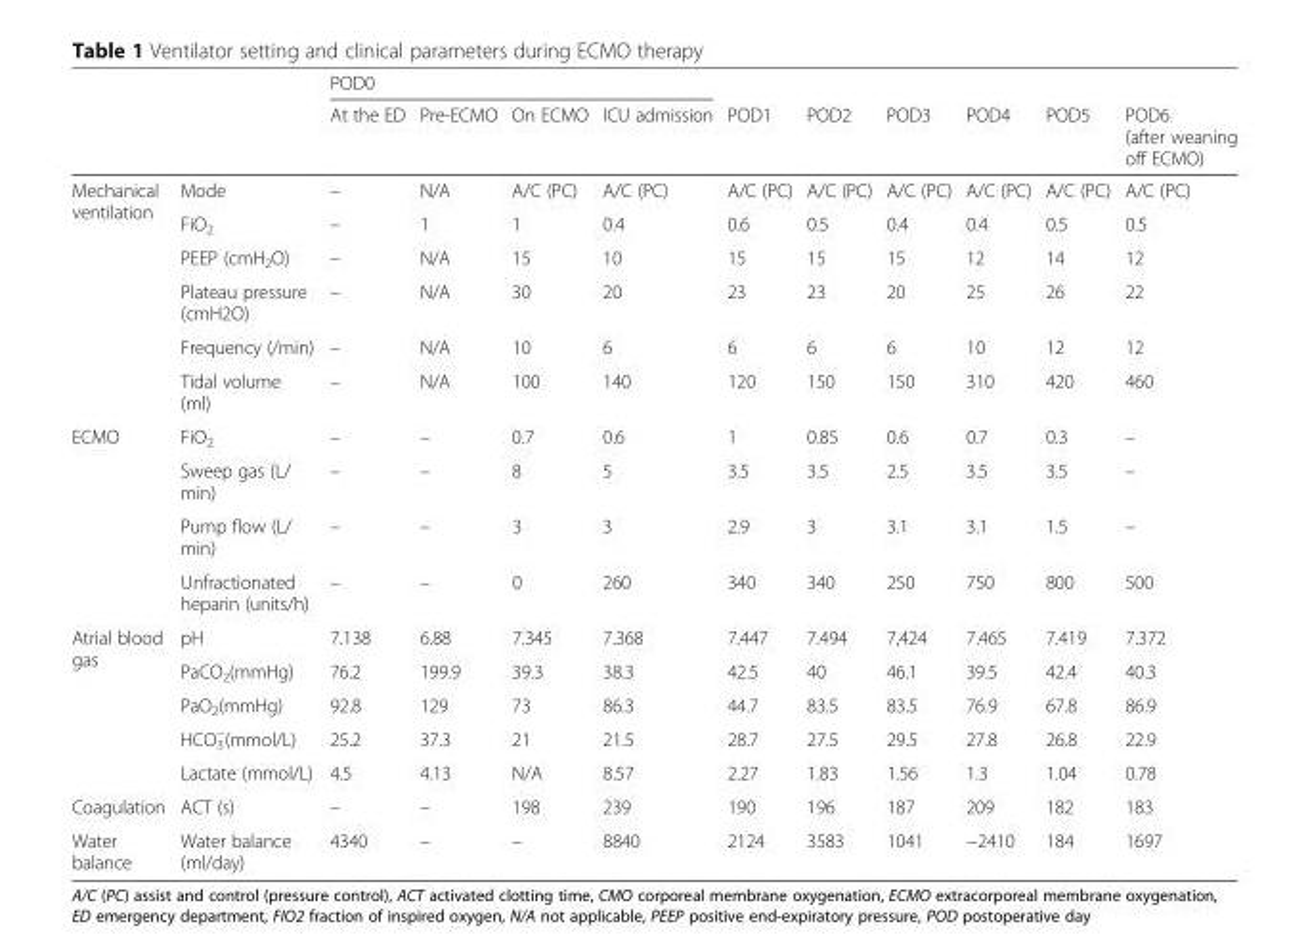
<table><thead><tr><td rowspan="2"></td><td rowspan="2"></td><td colspan="4">POD0</td><td rowspan="2">POD1</td><td rowspan="2">POD2</td><td rowspan="2">POD3</td><td rowspan="2">POD4</td><td rowspan="2">POD5</td><td rowspan="2">POD6 (after weaning off ECMO)</td></tr><tr><td>At the ED</td><td>Pre-ECMO</td><td>On ECMO</td><td>ICU admission</td></tr></thead><tbody><tr><td rowspan="6">Mechanical ventilation</td><td>Mode</td><td>–</td><td>N/A</td><td>A/C (PC)</td><td>A/C (PC)</td><td>A/C (PC)</td><td>A/C (PC)</td><td>A/C (PC)</td><td>A/C (PC)</td><td>A/C (PC)</td><td>A/C (PC)</td></tr><tr><td>FiO<sub>2</sub></td><td>–</td><td>1</td><td>1</td><td>0.4</td><td>0.6</td><td>0.5</td><td>0.4</td><td>0.4</td><td>0.5</td><td>0.5</td></tr><tr><td>PEEP (cmH<sub>2</sub>O)</td><td>–</td><td>N/A</td><td>15</td><td>10</td><td>15</td><td>15</td><td>15</td><td>12</td><td>14</td><td>12</td></tr><tr><td>Plateau pressure (cmH2O)</td><td>–</td><td>N/A</td><td>30</td><td>20</td><td>23</td><td>23</td><td>20</td><td>25</td><td>26</td><td>22</td></tr><tr><td>Frequency (/min)</td><td>–</td><td>N/A</td><td>10</td><td>6</td><td>6</td><td>6</td><td>6</td><td>10</td><td>12</td><td>12</td></tr><tr><td>Tidal volume (ml)</td><td>–</td><td>N/A</td><td>100</td><td>140</td><td>120</td><td>150</td><td>150</td><td>310</td><td>420</td><td>460</td></tr><tr><td rowspan="4">ECMO</td><td>FiO<sub>2</sub></td><td>–</td><td>–</td><td>0.7</td><td>0.6</td><td>1</td><td>0.85</td><td>0.6</td><td>0.7</td><td>0.3</td><td>–</td></tr><tr><td>Sweep gas (L/ min)</td><td>–</td><td>–</td><td>8</td><td>5</td><td>3.5</td><td>3.5</td><td>2.5</td><td>3.5</td><td>3.5</td><td>–</td></tr><tr><td>Pump flow (L/ min)</td><td>–</td><td>–</td><td>3</td><td>3</td><td>2.9</td><td>3</td><td>3.1</td><td>3.1</td><td>1.5</td><td>–</td></tr><tr><td>Unfractionated heparin (units/h)</td><td>–</td><td>–</td><td>0</td><td>260</td><td>340</td><td>340</td><td>250</td><td>750</td><td>800</td><td>500</td></tr><tr><td rowspan="5">Atrial blood gas</td><td>pH</td><td>7.138</td><td>6.88</td><td>7.345</td><td>7.368</td><td>7.447</td><td>7.494</td><td>7,424</td><td>7.465</td><td>7.419</td><td>7.372</td></tr><tr><td>PaCO<sub>2</sub>(mmHg)</td><td>76.2</td><td>199.9</td><td>39.3</td><td>38.3</td><td>42.5</td><td>40</td><td>46.1</td><td>39.5</td><td>42.4</td><td>40.3</td></tr><tr><td>PaO<sub>2</sub>(mmHg)</td><td>92.8</td><td>129</td><td>73</td><td>86.3</td><td>44.7</td><td>83.5</td><td>83.5</td><td>76.9</td><td>67.8</td><td>86.9</td></tr><tr><td>HCO<sub>3</sub> <sup>−</sup>(mmol/L)</td><td>25.2</td><td>37.3</td><td>21</td><td>21.5</td><td>28.7</td><td>27.5</td><td>29.5</td><td>27.8</td><td>26.8</td><td>22.9</td></tr><tr><td>Lactate (mmol/L)</td><td>4.5</td><td>4.13</td><td>N/A</td><td>8.57</td><td>2.27</td><td>1.83</td><td>1.56</td><td>1.3</td><td>1.04</td><td>0.78</td></tr><tr><td>Coagulation</td><td>ACT (s)</td><td>–</td><td>–</td><td>198</td><td>239</td><td>190</td><td>196</td><td>187</td><td>209</td><td>182</td><td>183</td></tr><tr><td>Water balance</td><td>Water balance (ml/day)</td><td>4340</td><td>–</td><td>–</td><td>8840</td><td>2124</td><td>3583</td><td>1041</td><td>−2410</td><td>184</td><td>1697</td></tr></tbody></table>